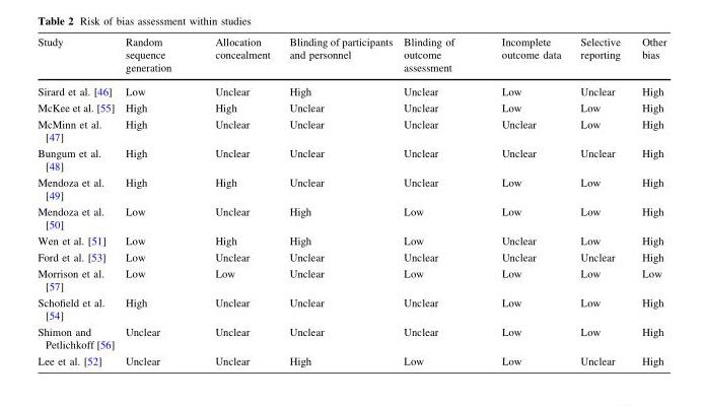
<table><thead><tr><td>Study</td><td>Random sequence generation</td><td>Allocation concealment</td><td>Blinding of participants and personnel</td><td>Blinding of outcome assessment</td><td>Incomplete outcome data</td><td>Selective reporting</td><td>Other bias</td></tr></thead><tbody><tr><td>Sirard et al. [46]</td><td>Low</td><td>Unclear</td><td>High</td><td>Unclear</td><td>Low</td><td>Unclear</td><td>High</td></tr><tr><td>McKee et al. [55]</td><td>High</td><td>High</td><td>Unclear</td><td>Unclear</td><td>Low</td><td>Low</td><td>High</td></tr><tr><td>McMinn et al. [47]</td><td>High</td><td>Unclear</td><td>Unclear</td><td>Unclear</td><td>Unclear</td><td>Low</td><td>High</td></tr><tr><td>Bungum et al. [48]</td><td>High</td><td>Unclear</td><td>Unclear</td><td>Unclear</td><td>Unclear</td><td>Unclear</td><td>High</td></tr><tr><td>Mendoza et al. [49]</td><td>High</td><td>High</td><td>Unclear</td><td>Unclear</td><td>Low</td><td>Low</td><td>High</td></tr><tr><td>Mendoza et al. [50]</td><td>Low</td><td>Unclear</td><td>High</td><td>Low</td><td>Low</td><td>Low</td><td>High</td></tr><tr><td>Wen et al. [51]</td><td>Low</td><td>High</td><td>High</td><td>Low</td><td>Unclear</td><td>Low</td><td>High</td></tr><tr><td>Ford et al. [53]</td><td>Low</td><td>Unclear</td><td>Unclear</td><td>Unclear</td><td>Unclear</td><td>Unclear</td><td>High</td></tr><tr><td>Morrison et al. [57]</td><td>Low</td><td>Low</td><td>Unclear</td><td>Low</td><td>Low</td><td>Low</td><td>Low</td></tr><tr><td>Schofield et al. [54]</td><td>High</td><td>Unclear</td><td>Unclear</td><td>Unclear</td><td>Low</td><td>Low</td><td>High</td></tr><tr><td>Shimon and Petlichkoff [56]</td><td>Unclear</td><td>Unclear</td><td>Unclear</td><td>Unclear</td><td>Low</td><td>Low</td><td>High</td></tr><tr><td>Lee et al. [52]</td><td>Unclear</td><td>Unclear</td><td>High</td><td>Low</td><td>Low</td><td>Unclear</td><td>High</td></tr></tbody></table>